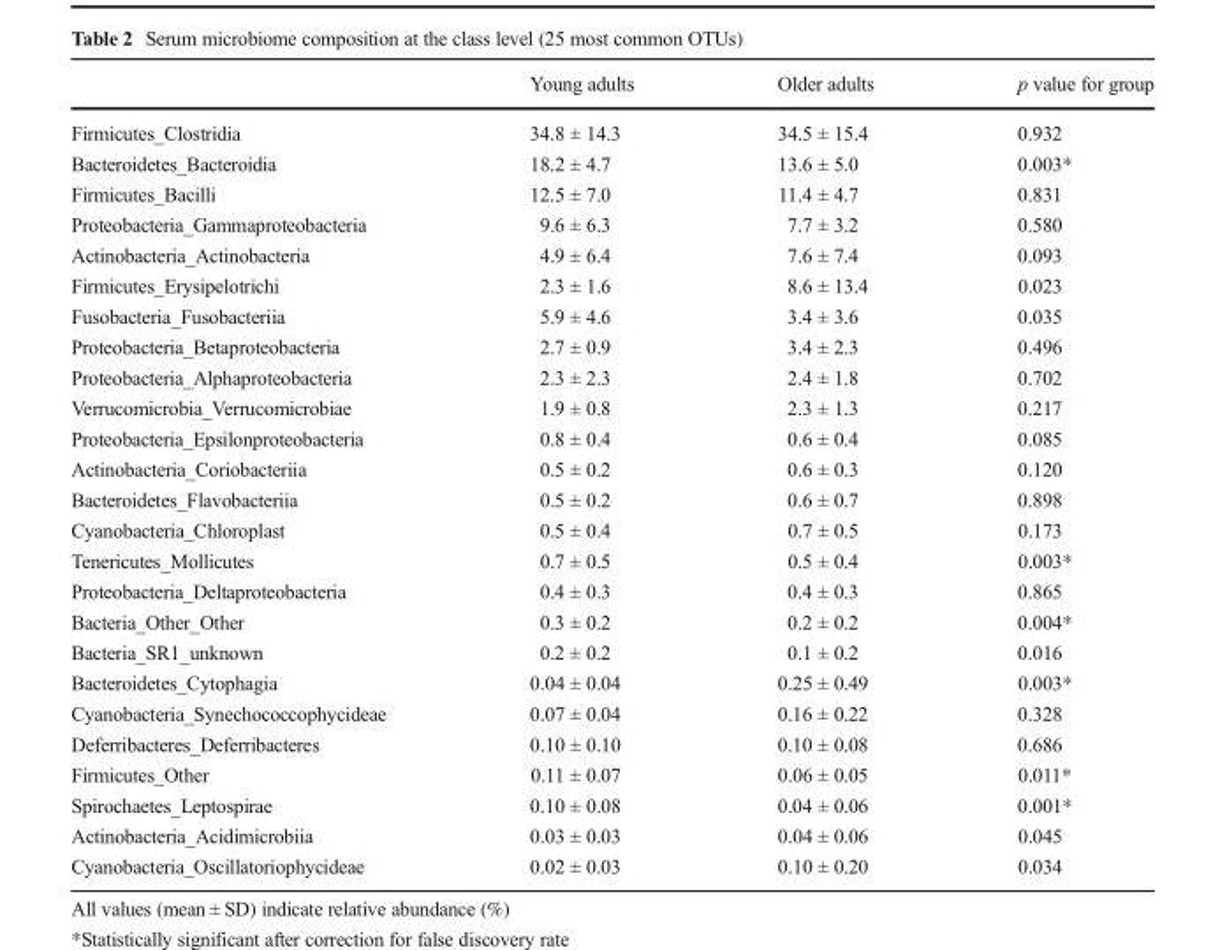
<table><thead><tr><td></td><td>Young adults</td><td>Older adults</td><td>p value for group</td></tr></thead><tbody><tr><td>Firmicutes_Clostridia</td><td>34.8 ± 14.3</td><td>34.5 ± 15.4</td><td>0.932</td></tr><tr><td>Bacteroidetes_Bacteroidia</td><td>18.2 ± 4.7</td><td>13.6 ± 5.0</td><td>0.003*</td></tr><tr><td>Firmicutes_Bacilli</td><td>12.5 ± 7.0</td><td>11.4 ± 4.7</td><td>0.831</td></tr><tr><td>Proteobacteria_Gammaproteobacteria</td><td>9.6 ± 6.3</td><td>7.7 ± 3.2</td><td>0.580</td></tr><tr><td>Actinobacteria_Actinobacteria</td><td>4.9 ± 6.4</td><td>7.6 ± 7.4</td><td>0.093</td></tr><tr><td>Firmicutes_Erysipelotrichi</td><td>2.3 ± 1.6</td><td>8.6 ± 13.4</td><td>0.023</td></tr><tr><td>Fusobacteria_Fusobacteriia</td><td>5.9 ± 4.6</td><td>3.4 ± 3.6</td><td>0.035</td></tr><tr><td>Proteobacteria_Betaproteobacteria</td><td>2.7 ± 0.9</td><td>3.4 ± 2.3</td><td>0.496</td></tr><tr><td>Proteobacteria_Alphaproteobacteria</td><td>2.3 ± 2.3</td><td>2.4 ± 1.8</td><td>0.702</td></tr><tr><td>Verrucomicrobia_Verrucomicrobiae</td><td>1.9 ± 0.8</td><td>2.3 ± 1.3</td><td>0.217</td></tr><tr><td>Proteobacteria_Epsilonproteobacteria</td><td>0.8 ± 0.4</td><td>0.6 ± 0.4</td><td>0.085</td></tr><tr><td>Actinobacteria_Coriobacteriia</td><td>0.5 ± 0.2</td><td>0.6 ± 0.3</td><td>0.120</td></tr><tr><td>Bacteroidetes_Flavobacteriia</td><td>0.5 ± 0.2</td><td>0.6 ± 0.7</td><td>0.898</td></tr><tr><td>Cyanobacteria_Chloroplast</td><td>0.5 ± 0.4</td><td>0.7 ± 0.5</td><td>0.173</td></tr><tr><td>Tenericutes_Mollicutes</td><td>0.7 ± 0.5</td><td>0.5 ± 0.4</td><td>0.003*</td></tr><tr><td>Proteobacteria_Deltaproteobacteria</td><td>0.4 ± 0.3</td><td>0.4 ± 0.3</td><td>0.865</td></tr><tr><td>Bacteria_Other_Other</td><td>0.3 ± 0.2</td><td>0.2 ± 0.2</td><td>0.004*</td></tr><tr><td>Bacteria_SR1_unknown</td><td>0.2 ± 0.2</td><td>0.1 ± 0.2</td><td>0.016</td></tr><tr><td>Bacteroidetes_Cytophagia</td><td>0.04 ± 0.04</td><td>0.25 ± 0.49</td><td>0.003*</td></tr><tr><td>Cyanobacteria_Synechococcophycideae</td><td>0.07 ± 0.04</td><td>0.16 ± 0.22</td><td>0.328</td></tr><tr><td>Deferribacteres_Deferribacteres</td><td>0.10 ± 0.10</td><td>0.10 ± 0.08</td><td>0.686</td></tr><tr><td>Firmicutes_Other</td><td>0.11 ± 0.07</td><td>0.06 ± 0.05</td><td>0.011*</td></tr><tr><td>Spirochaetes_Leptospirae</td><td>0.10 ± 0.08</td><td>0.04 ± 0.06</td><td>0.001*</td></tr><tr><td>Actinobacteria_Acidimicrobiia</td><td>0.03 ± 0.03</td><td>0.04 ± 0.06</td><td>0.045</td></tr><tr><td>Cyanobacteria_Oscillatoriophycideae</td><td>0.02 ± 0.03</td><td>0.10 ± 0.20</td><td>0.034</td></tr></tbody></table>